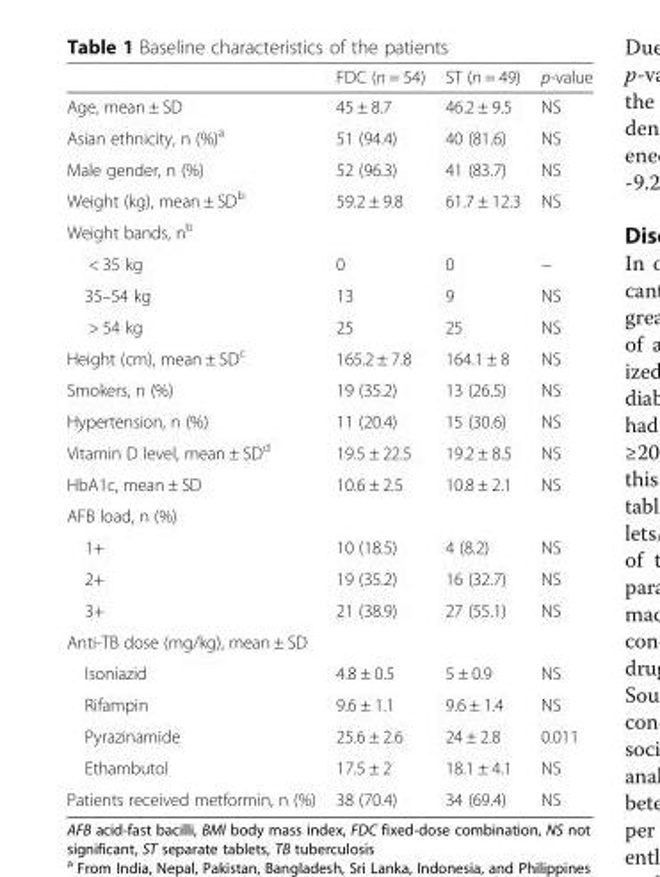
<table><thead><tr><td></td><td>FDC (n = 54)</td><td>ST (n = 49)</td><td>p-value</td></tr></thead><tbody><tr><td>Age, mean ± SD</td><td>45 ± 8.7</td><td>46.2 ± 9.5</td><td>NS</td></tr><tr><td>Asian ethnicity, n (%)<sup>a</sup></td><td>51 (94.4)</td><td>40 (81.6)</td><td>NS</td></tr><tr><td>Male gender, n (%)</td><td>52 (96.3)</td><td>41 (83.7)</td><td>NS</td></tr><tr><td>Weight (kg), mean ± SD<sup>b</sup></td><td>59.2 ± 9.8</td><td>61.7 ± 12.3</td><td>NS</td></tr><tr><td colspan="4">Weight bands, n<sup>b</sup></td></tr><tr><td>&lt; 35 kg</td><td>0</td><td>0</td><td>−</td></tr><tr><td>35–54 kg</td><td>13</td><td>9</td><td>NS</td></tr><tr><td>&gt; 54 kg</td><td>25</td><td>25</td><td>NS</td></tr><tr><td>Height (cm), mean ± SD<sup>c</sup></td><td>165.2 ± 7.8</td><td>164.1 ± 8</td><td>NS</td></tr><tr><td>Smokers, n (%)</td><td>19 (35.2)</td><td>13 (26.5)</td><td>NS</td></tr><tr><td>Hypertension, n (%)</td><td>11 (20.4)</td><td>15 (30.6)</td><td>NS</td></tr><tr><td>Vitamin D level, mean ± SD<sup>d</sup></td><td>19.5 ± 22.5</td><td>19.2 ± 8.5</td><td>NS</td></tr><tr><td>HbA1c, mean ± SD</td><td>10.6 ± 2.5</td><td>10.8 ± 2.1</td><td>NS</td></tr><tr><td colspan="4">AFB load, n (%)</td></tr><tr><td>1+</td><td>10 (18.5)</td><td>4 (8.2)</td><td>NS</td></tr><tr><td>2+</td><td>19 (35.2)</td><td>16 (32.7)</td><td>NS</td></tr><tr><td>3+</td><td>21 (38.9)</td><td>27 (55.1)</td><td>NS</td></tr><tr><td colspan="4">Anti-TB dose (mg/kg), mean ± SD</td></tr><tr><td>Isoniazid</td><td>4.8 ± 0.5</td><td>5 ± 0.9</td><td>NS</td></tr><tr><td>Rifampin</td><td>9.6 ± 1.1</td><td>9.6 ± 1.4</td><td>NS</td></tr><tr><td>Pyrazinamide</td><td>25.6 ± 2.6</td><td>24 ± 2.8</td><td>0.011</td></tr><tr><td>Ethambutol</td><td>17.5 ± 2</td><td>18.1 ± 4.1</td><td>NS</td></tr><tr><td>Patients received metformin, n (%)</td><td>38 (70.4)</td><td>34 (69.4)</td><td>NS</td></tr></tbody></table>